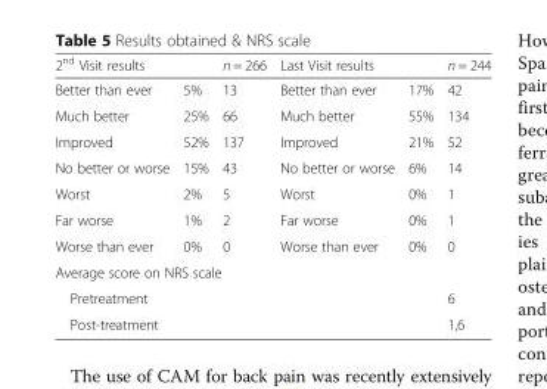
<table><thead><tr><td colspan="2">2<sup>nd</sup> Visit results</td><td rowspan="2">n = 266 13</td><td colspan="2">Last Visit results</td><td rowspan="2">n = 244 42</td></tr><tr><td>Better than ever</td><td>5%</td><td>Better than ever</td><td>17%</td></tr></thead><tbody><tr><td>Much better</td><td>25%</td><td>66</td><td>Much better</td><td>55%</td><td>134</td></tr><tr><td>Improved</td><td>52%</td><td>137</td><td>Improved</td><td>21%</td><td>52</td></tr><tr><td>No better or worse</td><td>15%</td><td>43</td><td>No better or worse</td><td>6%</td><td>14</td></tr><tr><td>Worst</td><td>2%</td><td>5</td><td>Worst</td><td>0%</td><td>1</td></tr><tr><td>Far worse</td><td>1%</td><td>2</td><td>Far worse</td><td>0%</td><td>1</td></tr><tr><td>Worse than ever</td><td>0%</td><td>0</td><td>Worse than ever</td><td>0%</td><td>0</td></tr><tr><td colspan="6">Average score on NRS scale</td></tr><tr><td colspan="5">Pretreatment</td><td>6</td></tr><tr><td colspan="5">Post-treatment</td><td>1,6</td></tr></tbody></table>